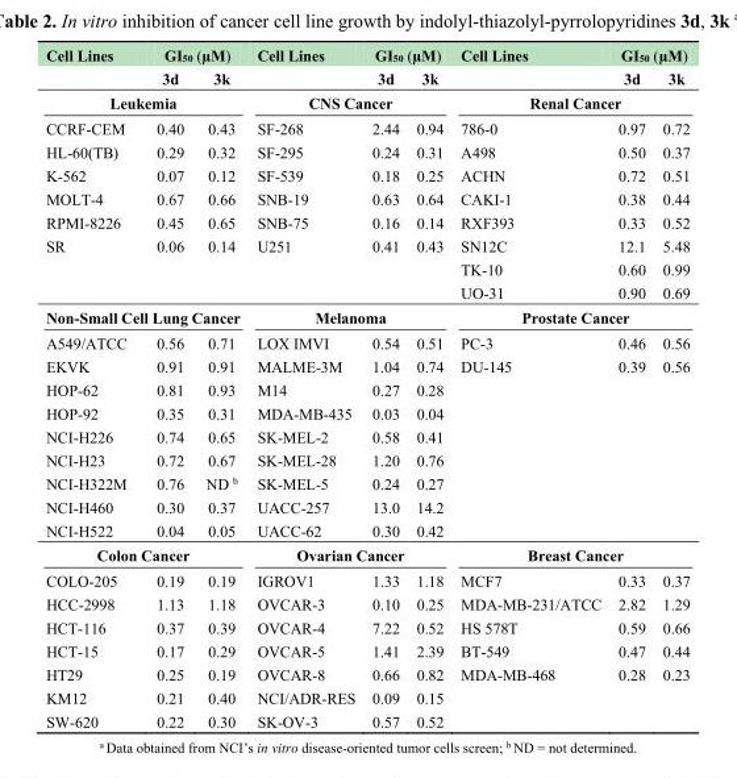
<table><thead><tr><td rowspan="2">Cell Lines</td><td colspan="2">GI<sub>50</sub> (µM)</td><td rowspan="2">Cell Lines</td><td colspan="2">GI<sub>50</sub> (µM)</td><td rowspan="2">Cell Lines</td><td colspan="2">GI<sub>50</sub> (µM)</td></tr><tr><td>3d</td><td>3k</td><td>3d</td><td>3k</td><td>3d</td><td>3k</td></tr></thead><tbody><tr><td colspan="3">Leukemia</td><td colspan="3">CNS Cancer</td><td colspan="3">Renal Cancer</td></tr><tr><td>CCRF-CEM</td><td>0.40</td><td>0.43</td><td>SF-268</td><td>2.44</td><td>0.94</td><td>786-0</td><td>0.97</td><td>0.72</td></tr><tr><td>HL-60(TB)</td><td>0.29</td><td>0.32</td><td>SF-295</td><td>0.24</td><td>0.31</td><td>A498</td><td>0.50</td><td>0.37</td></tr><tr><td>K-562</td><td>0.07</td><td>0.12</td><td>SF-539</td><td>0.18</td><td>0.25</td><td>ACHN</td><td>0.72</td><td>0.51</td></tr><tr><td>MOLT-4</td><td>0.67</td><td>0.66</td><td>SNB-19</td><td>0.63</td><td>0.64</td><td>CAKI-1</td><td>0.38</td><td>0.44</td></tr><tr><td>RPMI-8226</td><td>0.45</td><td>0.65</td><td>SNB-75</td><td>0.16</td><td>0.14</td><td>RXF393</td><td>0.33</td><td>0.52</td></tr><tr><td rowspan="3">SR</td><td>0.06</td><td>0.14</td><td>U251</td><td>0.41</td><td>0.43</td><td>SN12C</td><td>12.1</td><td>5.48</td></tr><tr><td></td><td></td><td></td><td></td><td></td><td>TK-10</td><td>0.60</td><td>0.99</td></tr><tr><td></td><td></td><td></td><td></td><td></td><td>UO-31</td><td>0.90</td><td>0.69</td></tr><tr><td colspan="3">Non-Small Cell Lung Cancer</td><td colspan="3">Melanoma</td><td colspan="3">Prostate Cancer</td></tr><tr><td>A549/ATCC</td><td>0.56</td><td>0.71</td><td>LOX IMVI</td><td>0.54</td><td>0.51</td><td>PC-3</td><td>0.46</td><td>0.56</td></tr><tr><td>EKVK</td><td>0.91</td><td>0.91</td><td>MALME-3M</td><td>1.04</td><td>0.74</td><td>DU-145</td><td>0.39</td><td>0.56</td></tr><tr><td>HOP-62</td><td>0.81</td><td>0.93</td><td>M14</td><td>0.27</td><td>0.28</td><td></td><td></td><td></td></tr><tr><td>HOP-92</td><td>0.35</td><td>0.31</td><td>MDA-MB-435</td><td>0.03</td><td>0.04</td><td></td><td></td><td></td></tr><tr><td>NCI-H226</td><td>0.74</td><td>0.65</td><td>SK-MEL-2</td><td>0.58</td><td>0.41</td><td></td><td></td><td></td></tr><tr><td>NCI-H23</td><td>0.72</td><td>0.67</td><td>SK-MEL-28</td><td>1.20</td><td>0.76</td><td colspan="3"></td></tr><tr><td>NCI-H322M</td><td>0.76</td><td>ND <sup>b</sup></td><td>SK-MEL-5</td><td>0.24</td><td>0.27</td><td></td><td></td><td></td></tr><tr><td>NCI-H460</td><td>0.30</td><td>0.37</td><td>UACC-257</td><td>13.0</td><td>14.2</td><td></td><td></td><td></td></tr><tr><td>NCI-H522</td><td>0.04</td><td>0.05</td><td>UACC-62</td><td>0.30</td><td>0.42</td><td></td><td></td><td></td></tr><tr><td colspan="3">Colon Cancer</td><td colspan="3">Ovarian Cancer</td><td colspan="3">Breast Cancer</td></tr><tr><td>COLO-205</td><td>0.19</td><td>0.19</td><td>IGROV1</td><td>1.33</td><td>1.18</td><td>MCF7</td><td>0.33</td><td>0.37</td></tr><tr><td>HCC-2998</td><td>1.13</td><td>1.18</td><td>OVCAR-3</td><td>0.10</td><td>0.25</td><td>MDA-MB-231/ATCC</td><td>2.82</td><td>1.29</td></tr><tr><td>HCT-116</td><td>0.37</td><td>0.39</td><td>OVCAR-4</td><td>7.22</td><td>0.52</td><td>HS 578T</td><td>0.59</td><td>0.66</td></tr><tr><td>HCT-15</td><td>0.17</td><td>0.29</td><td>OVCAR-5</td><td>1.41</td><td>2.39</td><td>BT-549</td><td>0.47</td><td>0.44</td></tr><tr><td>HT29</td><td>0.25</td><td>0.19</td><td>OVCAR-8</td><td>0.66</td><td>0.82</td><td>MDA-MB-468</td><td>0.28</td><td>0.23</td></tr><tr><td>KM12</td><td>0.21</td><td>0.40</td><td>NCI/ADR-RES</td><td>0.09</td><td>0.15</td><td></td><td></td><td></td></tr><tr><td>SW-620</td><td>0.22</td><td>0.30</td><td>SK-OV-3</td><td>0.57</td><td>0.52</td><td></td><td></td><td></td></tr></tbody></table>